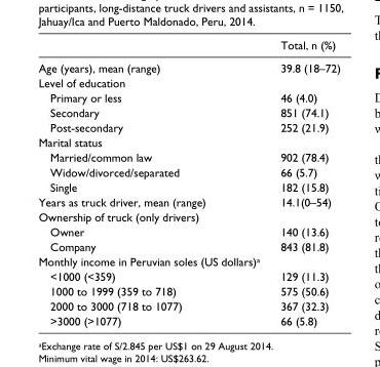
<table><thead><tr><td></td><td>Total, n (%)</td></tr></thead><tbody><tr><td>Age (years), mean (range)</td><td>39.8 (18–72)</td></tr><tr><td colspan="2">Level of education</td></tr><tr><td>Primary or less</td><td>46 (4.0)</td></tr><tr><td>Secondary</td><td>851 (74.1)</td></tr><tr><td>Post-secondary</td><td>252 (21.9)</td></tr><tr><td colspan="2">Marital status</td></tr><tr><td>Married/common law</td><td>902 (78.4)</td></tr><tr><td>Widow/divorced/separated</td><td>66 (5.7)</td></tr><tr><td>Single</td><td>182 (15.8)</td></tr><tr><td>Years as truck driver, mean (range)</td><td>14.1(0–54)</td></tr><tr><td colspan="2">Ownership of truck (only drivers)</td></tr><tr><td>Owner</td><td>140 (13.6)</td></tr><tr><td>Company</td><td>843 (81.8)</td></tr><tr><td colspan="2">Monthly income in Peruvian soles (US dollars)<sup>a</sup></td></tr><tr><td>&lt;1000 (&lt;359)</td><td>129 (11.3)</td></tr><tr><td>1000 to 1999 (359 to 718)</td><td>575 (50.6)</td></tr><tr><td>2000 to 3000 (718 to 1077)</td><td>367 (32.3)</td></tr><tr><td>&gt;3000 (&gt;1077)</td><td>66 (5.8)</td></tr></tbody></table>